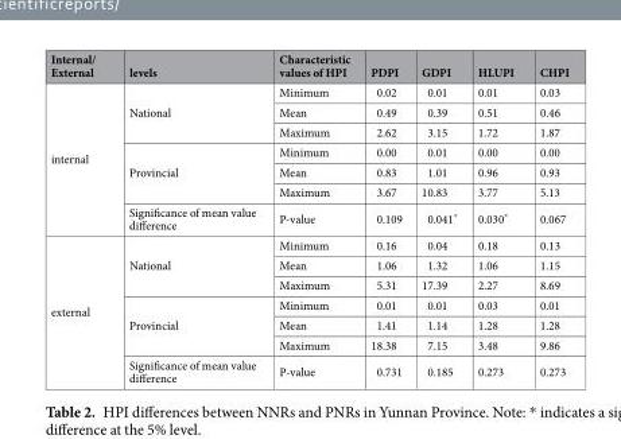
<table><thead><tr><td>Internal/ External</td><td>levels</td><td>Characteristic values of HPI</td><td>PDPI</td><td>GDPI</td><td>HLUPI</td><td>CHPI</td></tr></thead><tbody><tr><td rowspan="7">internal</td><td rowspan="3">National</td><td>Minimum</td><td>0.02</td><td>0.01</td><td>0.01</td><td>0.03</td></tr><tr><td>Mean</td><td>0.49</td><td>0.39</td><td>0.51</td><td>0.46</td></tr><tr><td>Maximum</td><td>2.62</td><td>3.15</td><td>1.72</td><td>1.87</td></tr><tr><td rowspan="3">Provincial</td><td>Minimum</td><td>0.00</td><td>0.01</td><td>0.00</td><td>0.00</td></tr><tr><td>Mean</td><td>0.83</td><td>1.01</td><td>0.96</td><td>0.93</td></tr><tr><td>Maximum</td><td>3.67</td><td>10.83</td><td>3.77</td><td>5.13</td></tr><tr><td>Significance of mean value difference</td><td>P-value</td><td>0.109</td><td>0.041*</td><td>0.030*</td><td>0.067</td></tr><tr><td rowspan="7">external</td><td rowspan="3">National</td><td>Minimum</td><td>0.16</td><td>0.04</td><td>0.18</td><td>0.13</td></tr><tr><td>Mean</td><td>1.06</td><td>1.32</td><td>1.06</td><td>1.15</td></tr><tr><td>Maximum</td><td>5.31</td><td>17.39</td><td>2.27</td><td>8.69</td></tr><tr><td rowspan="3">Provincial</td><td>Minimum</td><td>0.01</td><td>0.01</td><td>0.03</td><td>0.01</td></tr><tr><td>Mean</td><td>1.41</td><td>1.14</td><td>1.28</td><td>1.28</td></tr><tr><td>Maximum</td><td>18.38</td><td>7.15</td><td>3.48</td><td>9.86</td></tr><tr><td>Significance of mean value difference</td><td>P-value</td><td>0.731</td><td>0.185</td><td>0.273</td><td>0.273</td></tr></tbody></table>